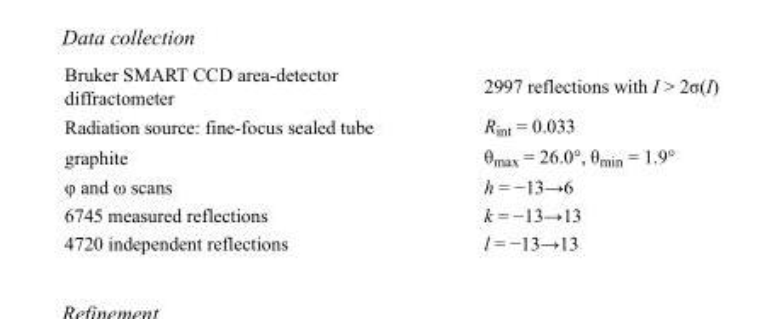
<table><tbody><tr><td>Bruker SMART CCD area-detector diffractometer</td><td>2997 reflections with I &gt; 2σ(I)</td></tr><tr><td>Radiation source: fine-focus sealed tube</td><td>R<sub>int</sub> = 0.033</td></tr><tr><td>graphite</td><td>θ<sub>max</sub> = 26.0°, θ<sub>min</sub> = 1.9°</td></tr><tr><td>φ and ω scans</td><td>h = −13→6</td></tr><tr><td>6745 measured reflections</td><td>k = −13→13</td></tr><tr><td>4720 independent reflections</td><td>l = −13→13</td></tr></tbody></table>